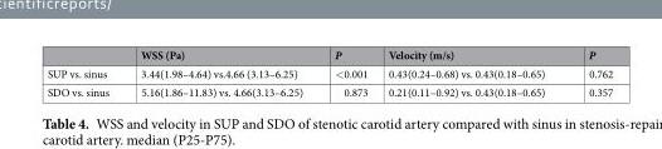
<table><thead><tr><td></td><td>WSS (Pa)</td><td>P</td><td>Velocity (m/s)</td><td>P</td></tr></thead><tbody><tr><td>SUP vs. sinus</td><td>3.44(1.98–4.64) vs.4.66 (3.13–6.25)</td><td>&lt;0.001</td><td>0.43(0.24–0.68) vs. 0.43(0.18–0.65)</td><td>0.762</td></tr><tr><td>SDO vs. sinus</td><td>5.16(1.86–11.83) vs. 4.66(3.13–6.25)</td><td>0.873</td><td>0.21(0.11–0.92) vs. 0.43(0.18–0.65)</td><td>0.357</td></tr></tbody></table>